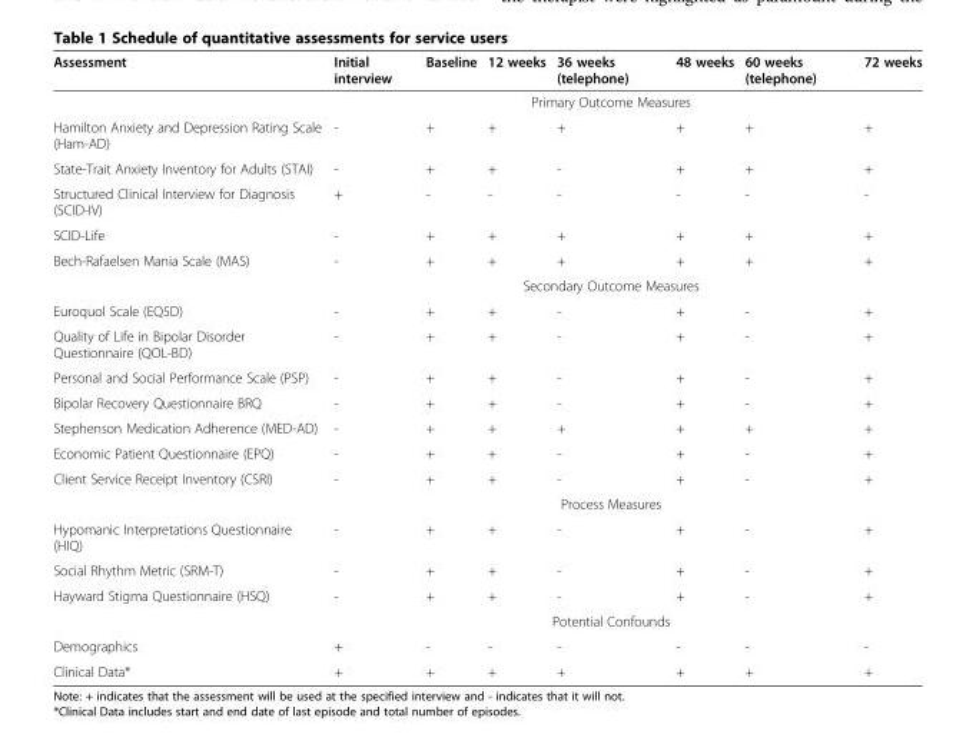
<table><thead><tr><td>Assessment</td><td>Initial interview</td><td>Baseline</td><td>12 weeks</td><td>36 weeks (telephone)</td><td>48 weeks</td><td>60 weeks (telephone)</td><td>72 weeks</td></tr></thead><tbody><tr><td></td><td></td><td></td><td colspan="3">Primary Outcome Measures</td><td></td><td></td></tr><tr><td>Hamilton Anxiety and Depression Rating Scale (Ham-AD)</td><td>-</td><td>+</td><td>+</td><td>+</td><td>+</td><td>+</td><td>+</td></tr><tr><td>State-Trait Anxiety Inventory for Adults (STAI)</td><td>-</td><td>+</td><td>+</td><td>-</td><td>+</td><td>+</td><td>+</td></tr><tr><td>Structured Clinical Interview for Diagnosis (SCID-IV)</td><td>+</td><td>-</td><td>-</td><td>-</td><td>-</td><td>-</td><td>-</td></tr><tr><td>SCID-Life</td><td>-</td><td>+</td><td>+</td><td>+</td><td>+</td><td>+</td><td>+</td></tr><tr><td rowspan="2">Bech-Rafaelsen Mania Scale (MAS)</td><td>-</td><td>+</td><td>+</td><td>+</td><td>+</td><td>+</td><td>+</td></tr><tr><td></td><td></td><td colspan="3">Secondary Outcome Measures</td><td></td><td></td></tr><tr><td>Euroquol Scale (EQ5D)</td><td>-</td><td>+</td><td>+</td><td>-</td><td>+</td><td>-</td><td>+</td></tr><tr><td>Quality of Life in Bipolar Disorder Questionnaire (QOL-BD)</td><td>-</td><td>+</td><td>+</td><td>-</td><td>+</td><td>-</td><td>+</td></tr><tr><td>Personal and Social Performance Scale (PSP)</td><td>-</td><td>+</td><td>+</td><td>-</td><td>+</td><td>-</td><td>+</td></tr><tr><td>Bipolar Recovery Questionnaire BRQ</td><td>-</td><td>+</td><td>+</td><td>-</td><td>+</td><td>-</td><td>+</td></tr><tr><td>Stephenson Medication Adherence (MED-AD)</td><td>-</td><td>+</td><td>+</td><td>+</td><td>+</td><td>+</td><td>+</td></tr><tr><td>Economic Patient Questionnaire (EPQ)</td><td>-</td><td>+</td><td>+</td><td>-</td><td>+</td><td>-</td><td>+</td></tr><tr><td rowspan="2">Client Service Receipt Inventory (CSRI)</td><td>-</td><td>+</td><td>+</td><td>-</td><td>+</td><td>-</td><td>+</td></tr><tr><td></td><td></td><td colspan="3">Process Measures</td><td></td><td></td></tr><tr><td>Hypomanic Interpretations Questionnaire (HIQ)</td><td>-</td><td>+</td><td>+</td><td>-</td><td>+</td><td>-</td><td>+</td></tr><tr><td>Social Rhythm Metric (SRM-T)</td><td>-</td><td>+</td><td>+</td><td>-</td><td>+</td><td>-</td><td>+</td></tr><tr><td rowspan="2">Hayward Stigma Questionnaire (HSQ)</td><td>-</td><td>+</td><td>+</td><td>-</td><td>+</td><td>-</td><td>+</td></tr><tr><td></td><td></td><td colspan="3">Potential Confounds</td><td></td><td></td></tr><tr><td>Demographics</td><td>+</td><td>-</td><td>-</td><td>-</td><td>-</td><td>-</td><td>-</td></tr><tr><td>Clinical Data*</td><td>+</td><td>+</td><td>+</td><td>+</td><td>+</td><td>+</td><td>+</td></tr></tbody></table>